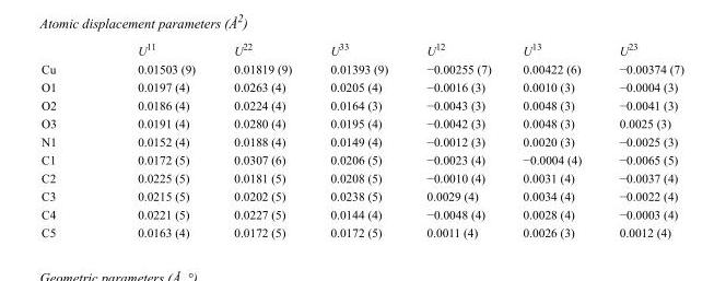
<table><thead><tr><td></td><td>U<sup>11</sup></td><td>U<sup>22</sup></td><td>U<sup>33</sup></td><td>U<sup>12</sup></td><td>U<sup>13</sup></td><td>U<sup>23</sup></td></tr></thead><tbody><tr><td>Cu</td><td>0.01503 (9)</td><td>0.01819 (9)</td><td>0.01393 (9)</td><td>−0.00255 (7)</td><td>0.00422 (6)</td><td>−0.00374 (7)</td></tr><tr><td>O1</td><td>0.0197 (4)</td><td>0.0263 (4)</td><td>0.0205 (4)</td><td>−0.0016 (3)</td><td>0.0010 (3)</td><td>−0.0004 (3)</td></tr><tr><td>O2</td><td>0.0186 (4)</td><td>0.0224 (4)</td><td>0.0164 (3)</td><td>−0.0043 (3)</td><td>0.0048 (3)</td><td>−0.0041 (3)</td></tr><tr><td>O3</td><td>0.0191 (4)</td><td>0.0280 (4)</td><td>0.0195 (4)</td><td>−0.0042 (3)</td><td>0.0048 (3)</td><td>0.0025 (3)</td></tr><tr><td>N1</td><td>0.0152 (4)</td><td>0.0188 (4)</td><td>0.0149 (4)</td><td>−0.0012 (3)</td><td>0.0020 (3)</td><td>−0.0025 (3)</td></tr><tr><td>C1</td><td>0.0172 (5)</td><td>0.0307 (6)</td><td>0.0206 (5)</td><td>−0.0023 (4)</td><td>−0.0004 (4)</td><td>−0.0065 (5)</td></tr><tr><td>C2</td><td>0.0225 (5)</td><td>0.0181 (5)</td><td>0.0208 (5)</td><td>−0.0010 (4)</td><td>0.0031 (4)</td><td>−0.0037 (4)</td></tr><tr><td>C3</td><td>0.0215 (5)</td><td>0.0202 (5)</td><td>0.0238 (5)</td><td>0.0029 (4)</td><td>0.0034 (4)</td><td>−0.0022 (4)</td></tr><tr><td>C4</td><td>0.0221 (5)</td><td>0.0227 (5)</td><td>0.0144 (4)</td><td>−0.0048 (4)</td><td>0.0028 (4)</td><td>−0.0003 (4)</td></tr><tr><td>C5</td><td>0.0163 (4)</td><td>0.0172 (5)</td><td>0.0172 (5)</td><td>0.0011 (4)</td><td>0.0026 (3)</td><td>0.0012 (4)</td></tr></tbody></table>